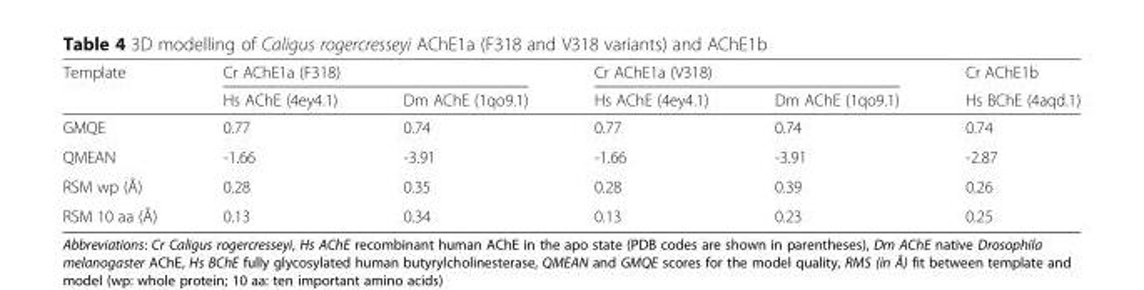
<table><thead><tr><td rowspan="2">Template</td><td colspan="2">Cr AChE1a (F318)</td><td colspan="2">Cr AChE1a (V318)</td><td rowspan="2">Cr AChE1b Hs BChE (4aqd.1)</td></tr><tr><td>Hs AChE (4ey4.1)</td><td>Dm AChE (1qo9.1)</td><td>Hs AChE (4ey4.1)</td><td>Dm AChE (1qo9.1)</td></tr></thead><tbody><tr><td>GMQE</td><td>0.77</td><td>0.74</td><td>0.77</td><td>0.74</td><td>0.74</td></tr><tr><td>QMEAN</td><td>-1.66</td><td>-3.91</td><td>-1.66</td><td>-3.91</td><td>-2.87</td></tr><tr><td>RSM wp (Å)</td><td>0.28</td><td>0.35</td><td>0.28</td><td>0.39</td><td>0.26</td></tr><tr><td>RSM 10 aa (Å)</td><td>0.13</td><td>0.34</td><td>0.13</td><td>0.23</td><td>0.25</td></tr></tbody></table>